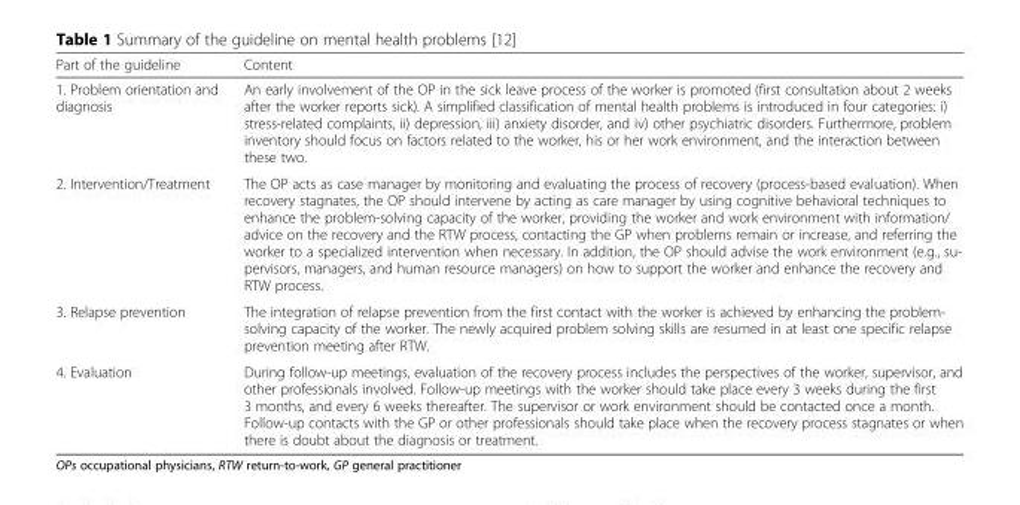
<table><thead><tr><td>Part of the guideline</td><td>Content</td></tr></thead><tbody><tr><td>1. Problem orientation and diagnosis</td><td>An early involvement of the OP in the sick leave process of the worker is promoted (first consultation about 2 weeks after the worker reports sick). A simplified classification of mental health problems is introduced in four categories: i) stress-related complaints, ii) depression, iii) anxiety disorder, and iv) other psychiatric disorders. Furthermore, problem inventory should focus on factors related to the worker, his or her work environment, and the interaction between these two.</td></tr><tr><td>2. Intervention/Treatment</td><td>The OP acts as case manager by monitoring and evaluating the process of recovery (process-based evaluation). When recovery stagnates, the OP should intervene by acting as care manager by using cognitive behavioral techniques to enhance the problem-solving capacity of the worker, providing the worker and work environment with information/ advice on the recovery and the RTW process, contacting the GP when problems remain or increase, and referring the worker to a specialized intervention when necessary. In addition, the OP should advise the work environment (e.g., su- pervisors, managers, and human resource managers) on how to support the worker and enhance the recovery and RTW process.</td></tr><tr><td>3. Relapse prevention</td><td>The integration of relapse prevention from the first contact with the worker is achieved by enhancing the problem- solving capacity of the worker. The newly acquired problem solving skills are resumed in at least one specific relapse prevention meeting after RTW.</td></tr><tr><td>4. Evaluation</td><td>During follow-up meetings, evaluation of the recovery process includes the perspectives of the worker, supervisor, and other professionals involved. Follow-up meetings with the worker should take place every 3 weeks during the first 3 months, and every 6 weeks thereafter. The supervisor or work environment should be contacted once a month. Follow-up contacts with the GP or other professionals should take place when the recovery process stagnates or when there is doubt about the diagnosis or treatment.</td></tr></tbody></table>